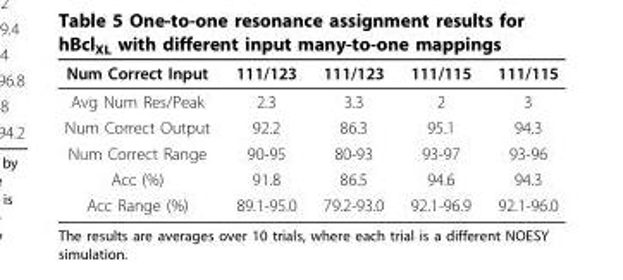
<table><thead><tr><td>Num Correct Input</td><td>111/123</td><td>111/123</td><td>111/115</td><td>111/115</td></tr></thead><tbody><tr><td>Avg Num Res/Peak</td><td>2.3</td><td>3.3</td><td>2</td><td>3</td></tr><tr><td>Num Correct Output</td><td>92.2</td><td>86.3</td><td>95.1</td><td>94.3</td></tr><tr><td>Num Correct Range</td><td>90-95</td><td>80-93</td><td>93-97</td><td>93-96</td></tr><tr><td>Acc (%)</td><td>91.8</td><td>86.5</td><td>94.6</td><td>94.3</td></tr><tr><td>Acc Range (%)</td><td>89.1-95.0</td><td>79.2-93.0</td><td>92.1-96.9</td><td>92.1-96.0</td></tr></tbody></table>